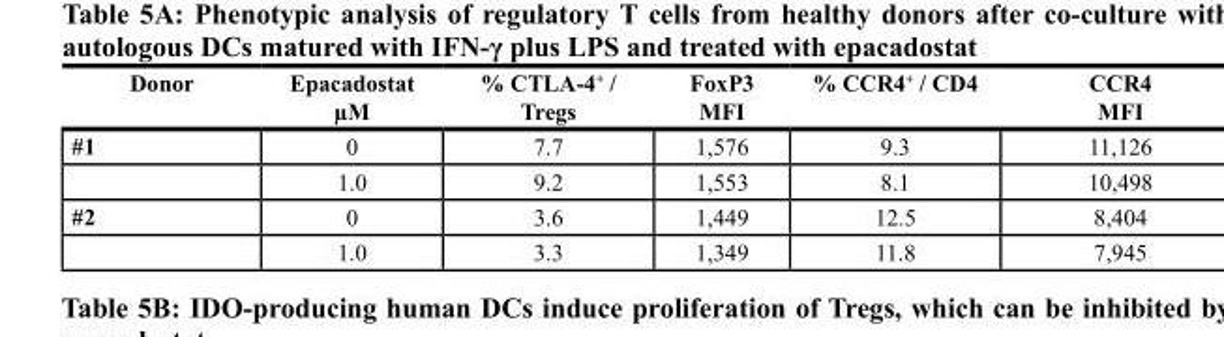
<table><thead><tr><td>Donor</td><td>Epacadostat µM</td><td>% CTLA-4<sup>+</sup> / Tregs</td><td>FoxP3 MFI</td><td>% CCR4<sup>+</sup> / CD4</td><td>CCR4 MFI</td></tr></thead><tbody><tr><td rowspan="2">#1</td><td>0</td><td>7.7</td><td>1,576</td><td>9.3</td><td>11,126</td></tr><tr><td>1.0</td><td>9.2</td><td>1,553</td><td>8.1</td><td>10,498</td></tr><tr><td rowspan="2">#2</td><td>0</td><td>3.6</td><td>1,449</td><td>12.5</td><td>8,404</td></tr><tr><td>1.0</td><td>3.3</td><td>1,349</td><td>11.8</td><td>7,945</td></tr></tbody></table>